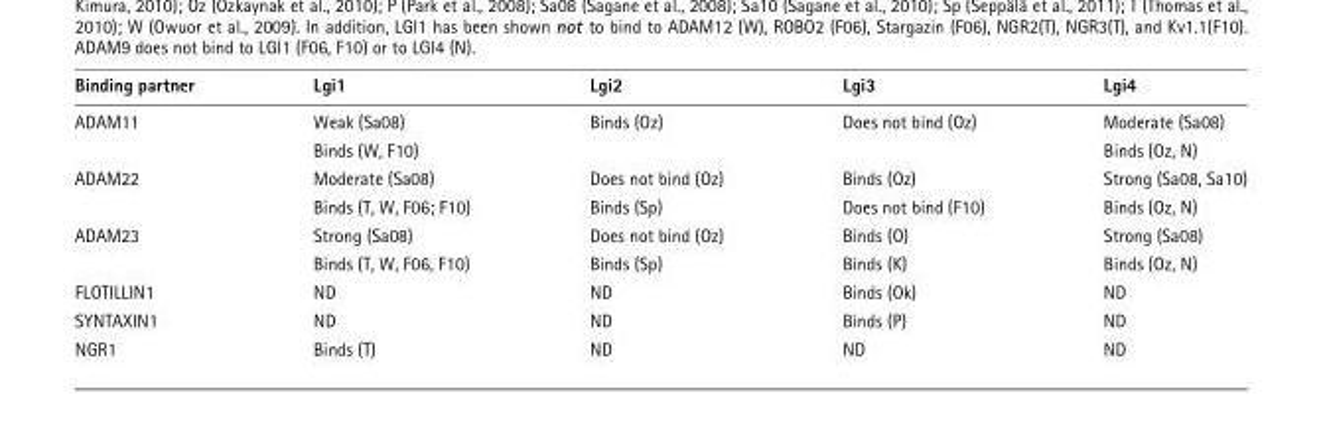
<table><thead><tr><td>Binding partner</td><td>Lgi1</td><td>Lgi2</td><td>Lgi3</td><td>Lgi4</td></tr></thead><tbody><tr><td rowspan="2">ADAM11</td><td>Weak (Sa08)</td><td>Binds (Oz)</td><td>Does not bind (Oz)</td><td>Moderate (Sa08)</td></tr><tr><td>Binds (W, F10)</td><td></td><td></td><td>Binds (Oz, N)</td></tr><tr><td rowspan="2">ADAM22</td><td>Moderate (Sa08)</td><td>Does not bind (Oz)</td><td>Binds (Oz)</td><td>Strong (Sa08, Sa10)</td></tr><tr><td>Binds (T, W, F06; F10)</td><td>Binds (Sp)</td><td>Does not bind (F10)</td><td>Binds (Oz, N)</td></tr><tr><td rowspan="2">ADAM23</td><td>Strong (Sa08)</td><td>Does not bind (Oz)</td><td>Binds (O)</td><td>Strong (Sa08)</td></tr><tr><td>Binds (T, W, F06, F10)</td><td>Binds (Sp)</td><td>Binds (K)</td><td>Binds (Oz, N)</td></tr><tr><td>FLOTILLIN1</td><td>ND</td><td>ND</td><td>Binds (Ok)</td><td>ND</td></tr><tr><td>SYNTAXIN1</td><td>ND</td><td>ND</td><td>Binds (P)</td><td>ND</td></tr><tr><td>NGR1</td><td>Binds (T)</td><td>ND</td><td>ND</td><td>ND</td></tr></tbody></table>